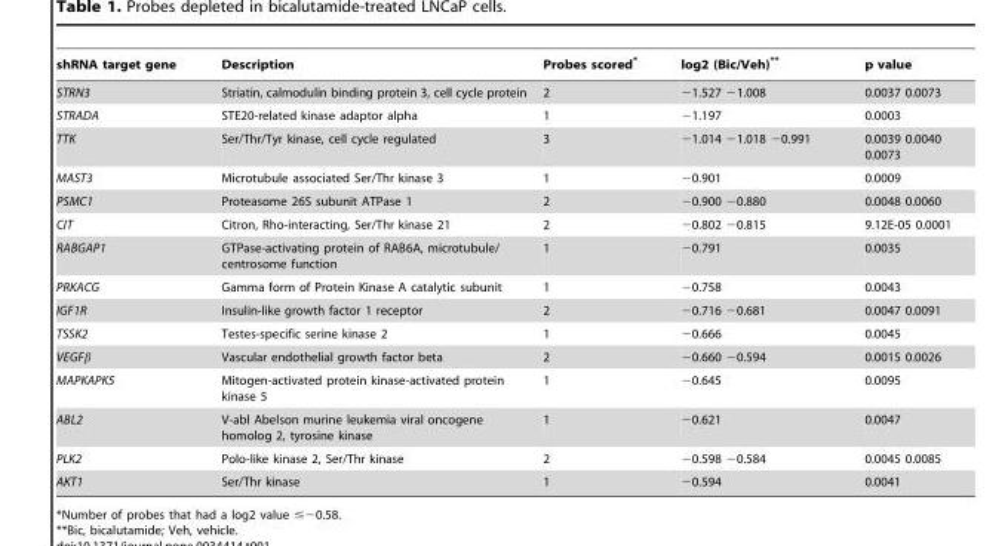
<table><thead><tr><td>shRNA target gene</td><td>Description</td><td>Probes scored*</td><td>log2 (Bic/Veh)**</td><td>p value</td></tr></thead><tbody><tr><td>STRN3</td><td>Striatin, calmodulin binding protein 3, cell cycle protein</td><td>2</td><td>−1.527 −1.008</td><td>0.0037 0.0073</td></tr><tr><td>STRADA</td><td>STE20-related kinase adaptor alpha</td><td>1</td><td>−1.197</td><td>0.0003</td></tr><tr><td>TTK</td><td>Ser/Thr/Tyr kinase, cell cycle regulated</td><td>3</td><td>−1.014 −1.018 −0.991</td><td>0.0039 0.0040 0.0073</td></tr><tr><td>MAST3</td><td>Microtubule associated Ser/Thr kinase 3</td><td>1</td><td>−0.901</td><td>0.0009</td></tr><tr><td>PSMC1</td><td>Proteasome 26S subunit ATPase 1</td><td>2</td><td>−0.900 −0.880</td><td>0.0048 0.0060</td></tr><tr><td>CIT</td><td>Citron, Rho-interacting, Ser/Thr kinase 21</td><td>2</td><td>−0.802 −0.815</td><td>9.12E-05 0.0001</td></tr><tr><td>RABGAP1</td><td>GTPase-activating protein of RAB6A, microtubule/ centrosome function</td><td>1</td><td>−0.791</td><td>0.0035</td></tr><tr><td>PRKACG</td><td>Gamma form of Protein Kinase A catalytic subunit</td><td>1</td><td>−0.758</td><td>0.0043</td></tr><tr><td>IGF1R</td><td>Insulin-like growth factor 1 receptor</td><td>2</td><td>−0.716 −0.681</td><td>0.0047 0.0091</td></tr><tr><td>TSSK2</td><td>Testes-specific serine kinase 2</td><td>1</td><td>−0.666</td><td>0.0045</td></tr><tr><td>VEGFβ</td><td>Vascular endothelial growth factor beta</td><td>2</td><td>−0.660 −0.594</td><td>0.0015 0.0026</td></tr><tr><td>MAPKAPK5</td><td>Mitogen-activated protein kinase-activated protein kinase 5</td><td>1</td><td>−0.645</td><td>0.0095</td></tr><tr><td>ABL2</td><td>V-abl Abelson murine leukemia viral oncogene homolog 2, tyrosine kinase</td><td>1</td><td>−0.621</td><td>0.0047</td></tr><tr><td>PLK2</td><td>Polo-like kinase 2, Ser/Thr kinase</td><td>2</td><td>−0.598 −0.584</td><td>0.0045 0.0085</td></tr><tr><td>AKT1</td><td>Ser/Thr kinase</td><td>1</td><td>−0.594</td><td>0.0041</td></tr></tbody></table>